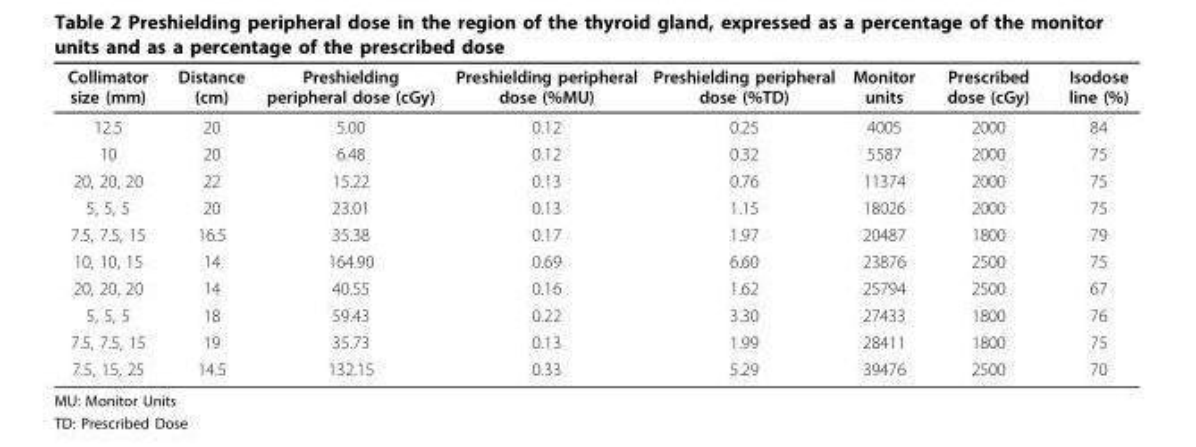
<table><thead><tr><td>Collimator size (mm)</td><td>Distance (cm)</td><td>Preshielding peripheral dose (cGy)</td><td>Preshielding peripheral dose (%MU)</td><td>Preshielding peripheral dose (%TD)</td><td>Monitor units</td><td>Prescribed dose (cGy)</td><td>Isodose line (%)</td></tr></thead><tbody><tr><td>12.5</td><td>20</td><td>5.00</td><td>0.12</td><td>0.25</td><td>4005</td><td>2000</td><td>84</td></tr><tr><td>10</td><td>20</td><td>6.48</td><td>0.12</td><td>0.32</td><td>5587</td><td>2000</td><td>75</td></tr><tr><td>20, 20, 20</td><td>22</td><td>15.22</td><td>0.13</td><td>0.76</td><td>11374</td><td>2000</td><td>75</td></tr><tr><td>5, 5, 5</td><td>20</td><td>23.01</td><td>0.13</td><td>1.15</td><td>18026</td><td>2000</td><td>75</td></tr><tr><td>7.5, 7.5, 15</td><td>16.5</td><td>35.38</td><td>0.17</td><td>1.97</td><td>20487</td><td>1800</td><td>79</td></tr><tr><td>10, 10, 15</td><td>14</td><td>164.90</td><td>0.69</td><td>6.60</td><td>23876</td><td>2500</td><td>75</td></tr><tr><td>20, 20, 20</td><td>14</td><td>40.55</td><td>0.16</td><td>1.62</td><td>25794</td><td>2500</td><td>67</td></tr><tr><td>5, 5, 5</td><td>18</td><td>59.43</td><td>0.22</td><td>3.30</td><td>27433</td><td>1800</td><td>76</td></tr><tr><td>7.5, 7.5, 15</td><td>19</td><td>35.73</td><td>0.13</td><td>1.99</td><td>28411</td><td>1800</td><td>75</td></tr><tr><td>7.5, 15, 25</td><td>14.5</td><td>132.15</td><td>0.33</td><td>5.29</td><td>39476</td><td>2500</td><td>70</td></tr></tbody></table>